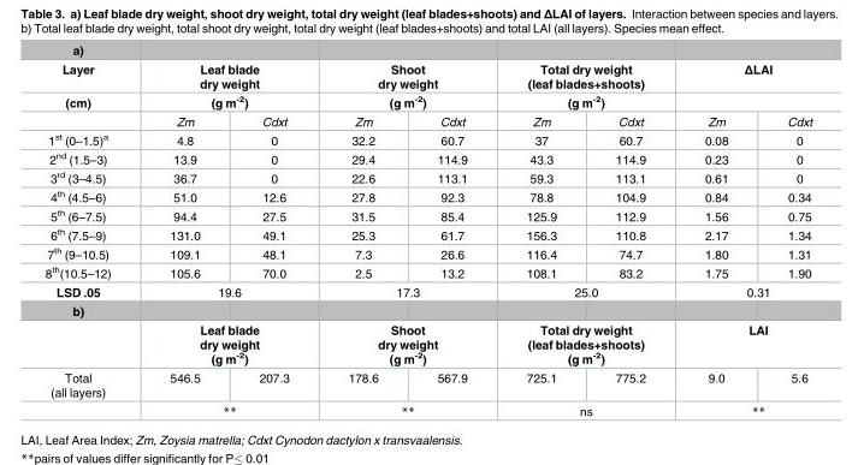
<table><tbody><tr><td colspan="9">a)</td></tr><tr><td>Layer</td><td colspan="2">Leaf blade dry weight</td><td colspan="2">Shoot dry weight</td><td colspan="2">Total dry weight (leaf blades+shoots)</td><td colspan="2">ΔLAI</td></tr><tr><td rowspan="2">(cm)</td><td colspan="2">(g m<sup>-2</sup>)</td><td colspan="2">(g m<sup>-2</sup>)</td><td colspan="2">(g m<sup>-2</sup>)</td><td colspan="2"></td></tr><tr><td>Zm</td><td>Cdxt</td><td>Zm</td><td>Cdxt</td><td>Zm</td><td>Cdxt</td><td>Zm</td><td>Cdxt</td></tr><tr><td>1<sup>st</sup> (0–1.5)<sup>a</sup></td><td>4.8</td><td>0</td><td>32.2</td><td>60.7</td><td>37</td><td>60.7</td><td>0.08</td><td>0</td></tr><tr><td>2<sup>nd</sup> (1.5–3)</td><td>13.9</td><td>0</td><td>29.4</td><td>114.9</td><td>43.3</td><td>114.9</td><td>0.23</td><td>0</td></tr><tr><td>3<sup>rd</sup> (3–4.5)</td><td>36.7</td><td>0</td><td>22.6</td><td>113.1</td><td>59.3</td><td>113.1</td><td>0.61</td><td>0</td></tr><tr><td>4<sup>th</sup> (4.5–6)</td><td>51.0</td><td>12.6</td><td>27.8</td><td>92.3</td><td>78.8</td><td>104.9</td><td>0.84</td><td>0.34</td></tr><tr><td>5<sup>th</sup> (6–7.5)</td><td>94.4</td><td>27.5</td><td>31.5</td><td>85.4</td><td>125.9</td><td>112.9</td><td>1.56</td><td>0.75</td></tr><tr><td>6<sup>th</sup> (7.5–9)</td><td>131.0</td><td>49.1</td><td>25.3</td><td>61.7</td><td>156.3</td><td>110.8</td><td>2.17</td><td>1.34</td></tr><tr><td>7<sup>th</sup> (9–10.5)</td><td>109.1</td><td>48.1</td><td>7.3</td><td>26.6</td><td>116.4</td><td>74.7</td><td>1.80</td><td>1.31</td></tr><tr><td>8<sup>th</sup>(10.5–12)</td><td>105.6</td><td>70.0</td><td>2.5</td><td>13.2</td><td>108.1</td><td>83.2</td><td>1.75</td><td>1.90</td></tr><tr><td>LSD .05</td><td colspan="2">19.6</td><td colspan="2">17.3</td><td colspan="2">25.0</td><td colspan="2">0.31</td></tr><tr><td colspan="9">b)</td></tr><tr><td></td><td colspan="2">Leaf blade dry weight (g m<sup>-2</sup>)</td><td colspan="2">Shoot dry weight (g m<sup>-2</sup>)</td><td colspan="2">Total dry weight (leaf blades+shoots) (g m<sup>-2</sup>)</td><td colspan="2">LAI</td></tr><tr><td rowspan="2">Total (all layers)</td><td>546.5</td><td>207.3</td><td>178.6</td><td>567.9</td><td>725.1</td><td>775.2</td><td>9.0</td><td>5.6</td></tr><tr><td colspan="2">**</td><td colspan="2">**</td><td colspan="2">ns</td><td colspan="2">**</td></tr></tbody></table>